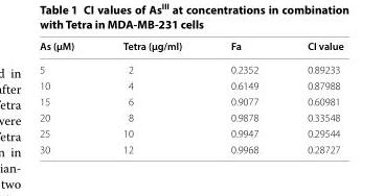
<table><thead><tr><td>As (μM)</td><td>Tetra (μg/ml)</td><td>Fa</td><td>CI value</td></tr></thead><tbody><tr><td>5</td><td>2</td><td>0.2352</td><td>0.89233</td></tr><tr><td>10</td><td>4</td><td>0.6149</td><td>0.87988</td></tr><tr><td>15</td><td>6</td><td>0.9077</td><td>0.60981</td></tr><tr><td>20</td><td>8</td><td>0.9878</td><td>0.33548</td></tr><tr><td>25</td><td>10</td><td>0.9947</td><td>0.29544</td></tr><tr><td>30</td><td>12</td><td>0.9968</td><td>0.28727</td></tr></tbody></table>